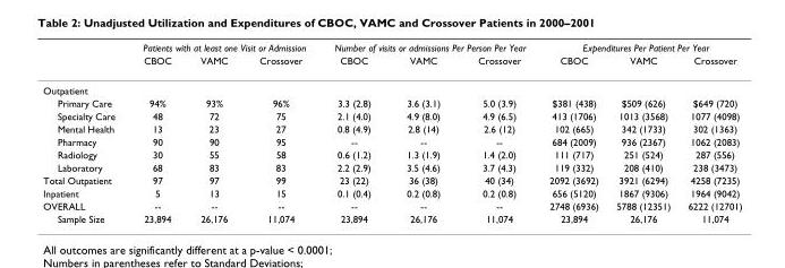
<table><thead><tr><td rowspan="2"></td><td colspan="3">Patients with at least one Visit or Admission</td><td colspan="3">Number of visits or admissions Per Person Per Year</td><td colspan="3">Expenditures Per Patient Per Year</td></tr><tr><td>CBOC</td><td>VAMC</td><td>Crossover</td><td>CBOC</td><td>VAMC</td><td>Crossover</td><td>CBOC</td><td>VAMC</td><td>Crossover</td></tr></thead><tbody><tr><td colspan="10">Outpatient</td></tr><tr><td>Primary Care</td><td>94%</td><td>93%</td><td>96%</td><td>3.3 (2.8)</td><td>3.6 (3.1)</td><td>5.0 (3.9)</td><td>$381 (438)</td><td>$509 (626)</td><td>$649 (720)</td></tr><tr><td>Specialty Care</td><td>48</td><td>72</td><td>75</td><td>2.1 (4.0)</td><td>4.9 (8.0)</td><td>4.9 (6.5)</td><td>413 (1706)</td><td>1013 (3568)</td><td>1077 (4098)</td></tr><tr><td>Mental Health</td><td>13</td><td>23</td><td>27</td><td>0.8 (4.9)</td><td>2.8 (14)</td><td>2.6 (12)</td><td>102 (665)</td><td>342 (1733)</td><td>302 (1363)</td></tr><tr><td>Pharmacy</td><td>90</td><td>90</td><td>95</td><td>--</td><td>--</td><td>--</td><td>684 (2009)</td><td>936 (2367)</td><td>1062 (2083)</td></tr><tr><td>Radiology</td><td>30</td><td>55</td><td>58</td><td>0.6 (1.2)</td><td>1.3 (1.9)</td><td>1.4 (2.0)</td><td>111 (717)</td><td>251 (524)</td><td>287 (556)</td></tr><tr><td>Laboratory</td><td>68</td><td>83</td><td>83</td><td>2.2 (2.9)</td><td>3.5 (4.6)</td><td>3.7 (4.3)</td><td>119 (332)</td><td>208 (410)</td><td>238 (3473)</td></tr><tr><td>Total Outpatient</td><td>97</td><td>97</td><td>99</td><td>23 (22)</td><td>36 (38)</td><td>40 (34)</td><td>2092 (3692)</td><td>3921 (6294)</td><td>4258 (7235)</td></tr><tr><td>Inpatient</td><td>5</td><td>13</td><td>15</td><td>0.1 (0.4)</td><td>0.2 (0.8)</td><td>0.2 (0.8)</td><td>656 (5120)</td><td>1867 (9306)</td><td>1964 (9042)</td></tr><tr><td>OVERALL</td><td>--</td><td>--</td><td>--</td><td>--</td><td>--</td><td>--</td><td>2748 (6936)</td><td>5788 (12351)</td><td>6222 (12701)</td></tr><tr><td>Sample Size</td><td>23,894</td><td>26,176</td><td>11,074</td><td>23,894</td><td>26,176</td><td>11,074</td><td>23,894</td><td>26,176</td><td>11,074</td></tr></tbody></table>